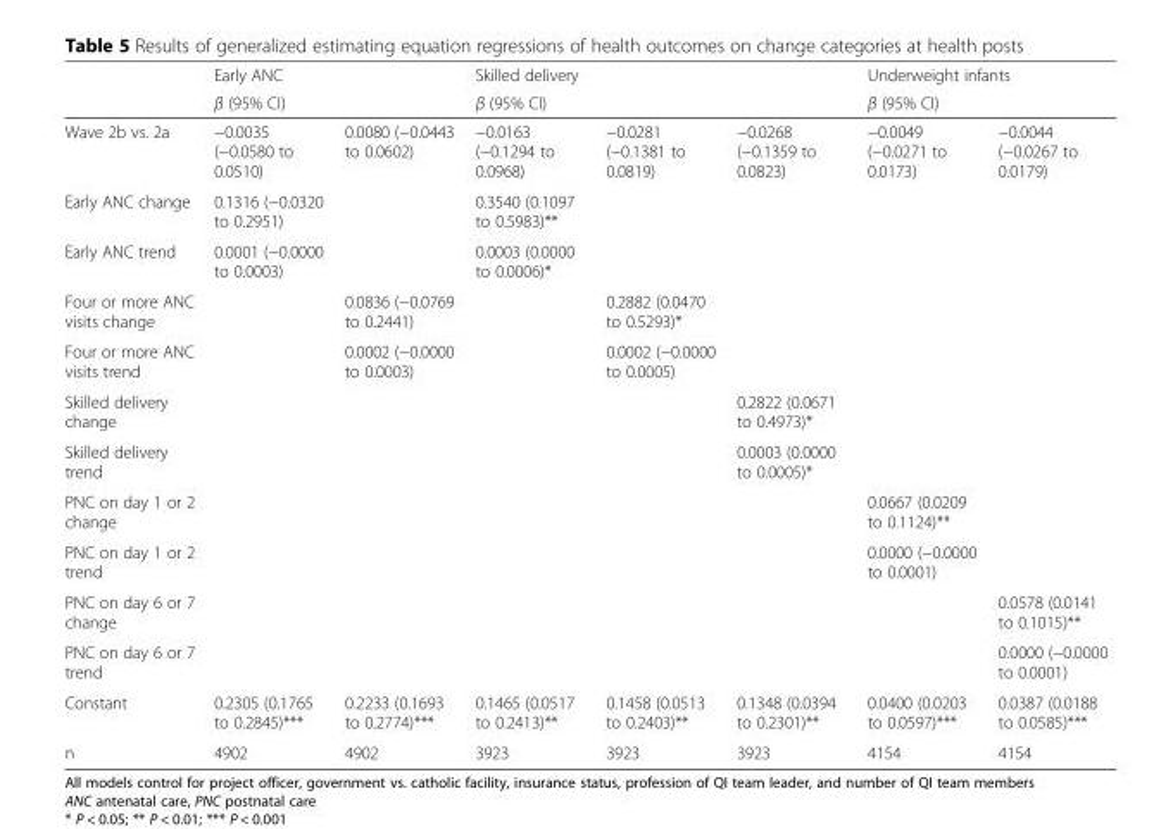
<table><thead><tr><td rowspan="3">Wave 2b vs. 2a</td><td rowspan="2" colspan="2">Early ANC β (95% CI)</td><td rowspan="2" colspan="3">Skilled delivery β (95% CI)</td><td rowspan="2" colspan="2">Underweight infants β (95% CI)</td></tr><tr></tr><tr><td>−0.0035 (−0.0580 to 0.0510)</td><td>0.0080 (−0.0443 to 0.0602)</td><td>−0.0163 (−0.1294 to 0.0968)</td><td>−0.0281 (−0.1381 to 0.0819)</td><td>−0.0268 (−0.1359 to 0.0823)</td><td>−0.0049 (−0.0271 to 0.0173)</td><td>−0.0044 (−0.0267 to 0.0179)</td></tr></thead><tbody><tr><td>Early ANC change</td><td>0.1316 (−0.0320 to 0.2951)</td><td></td><td>0.3540 (0.1097 to 0.5983)**</td><td></td><td></td><td></td><td></td></tr><tr><td>Early ANC trend</td><td>0.0001 (−0.0000 to 0.0003)</td><td></td><td>0.0003 (0.0000 to 0.0006)*</td><td></td><td></td><td></td><td></td></tr><tr><td>Four or more ANC visits change</td><td></td><td>0.0836 (−0.0769 to 0.2441)</td><td></td><td>0.2882 (0.0470 to 0.5293)*</td><td></td><td></td><td></td></tr><tr><td>Four or more ANC visits trend</td><td></td><td>0.0002 (−0.0000 to 0.0003)</td><td></td><td>0.0002 (−0.0000 to 0.0005)</td><td></td><td></td><td></td></tr><tr><td>Skilled delivery change</td><td></td><td></td><td></td><td></td><td>0.2822 (0.0671 to 0.4973)*</td><td></td><td></td></tr><tr><td>Skilled delivery trend</td><td></td><td></td><td></td><td></td><td>0.0003 (0.0000 to 0.0005)*</td><td></td><td></td></tr><tr><td>PNC on day 1 or 2 change</td><td></td><td></td><td></td><td></td><td></td><td>0.0667 (0.0209 to 0.1124)**</td><td></td></tr><tr><td>PNC on day 1 or 2 trend</td><td></td><td></td><td></td><td></td><td></td><td>0.0000 (−0.0000 to 0.0001)</td><td></td></tr><tr><td>PNC on day 6 or 7 change</td><td></td><td></td><td></td><td></td><td></td><td></td><td>0.0578 (0.0141 to 0.1015)**</td></tr><tr><td>PNC on day 6 or 7 trend</td><td></td><td></td><td></td><td></td><td></td><td></td><td>0.0000 (−0.0000 to 0.0001)</td></tr><tr><td>Constant</td><td>0.2305 (0.1765 to 0.2845)***</td><td>0.2233 (0.1693 to 0.2774)***</td><td>0.1465 (0.0517 to 0.2413)**</td><td>0.1458 (0.0513 to 0.2403)**</td><td>0.1348 (0.0394 to 0.2301)**</td><td>0.0400 (0.0203 to 0.0597)***</td><td>0.0387 (0.0188 to 0.0585)***</td></tr><tr><td>n</td><td>4902</td><td>4902</td><td>3923</td><td>3923</td><td>3923</td><td>4154</td><td>4154</td></tr></tbody></table>